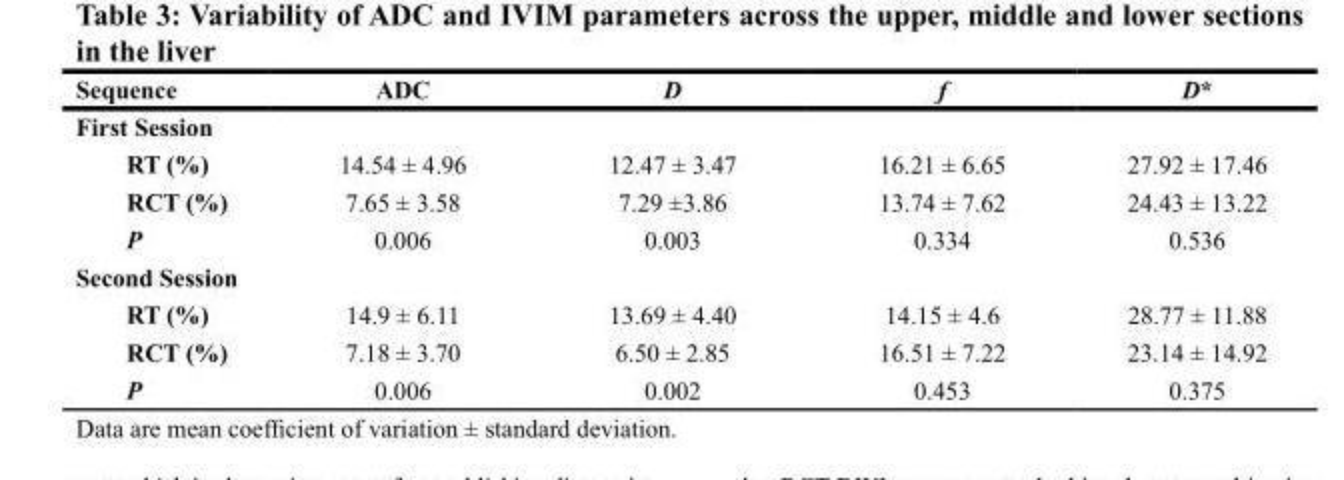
<table><thead><tr><td>Sequence</td><td>ADC</td><td>D</td><td>f</td><td>D*</td></tr></thead><tbody><tr><td colspan="5">First Session</td></tr><tr><td>RT (%)</td><td>14.54 ± 4.96</td><td>12.47 ± 3.47</td><td>16.21 ± 6.65</td><td>27.92 ± 17.46</td></tr><tr><td>RCT (%)</td><td>7.65 ± 3.58</td><td>7.29 ±3.86</td><td>13.74 ± 7.62</td><td>24.43 ± 13.22</td></tr><tr><td>P</td><td>0.006</td><td>0.003</td><td>0.334</td><td>0.536</td></tr><tr><td colspan="5">Second Session</td></tr><tr><td>RT (%)</td><td>14.9 ± 6.11</td><td>13.69 ± 4.40</td><td>14.15 ± 4.6</td><td>28.77 ± 11.88</td></tr><tr><td>RCT (%)</td><td>7.18 ± 3.70</td><td>6.50 ± 2.85</td><td>16.51 ± 7.22</td><td>23.14 ± 14.92</td></tr><tr><td>P</td><td>0.006</td><td>0.002</td><td>0.453</td><td>0.375</td></tr></tbody></table>